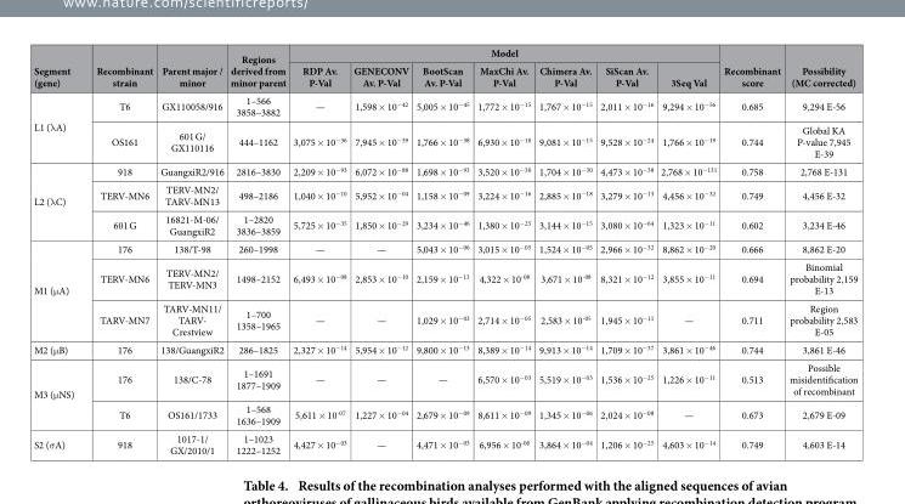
<table><thead><tr><td rowspan="2">Segment (gene)</td><td rowspan="2">Recombinant strain</td><td rowspan="2">Parent major / minor</td><td rowspan="2">Regions derived from minor parent</td><td colspan="7">Model</td><td rowspan="2">Recombinant score</td><td rowspan="2">Possibility (MC corrected)</td></tr><tr><td>RDP Av. P-Val</td><td>GENECONV Av. P-Val</td><td>BootScan Av. P-Val</td><td>MaxChi Av. P-Val</td><td>Chimera Av. P-Val</td><td>SiScan Av. P-Val</td><td>3Seq Val</td></tr></thead><tbody><tr><td rowspan="2">L1 (λ A)</td><td>T6</td><td>GX110058/916</td><td>1–566 3858–3882</td><td>—</td><td>1,598 × 10<sup>−42</sup></td><td>5,005 × 10<sup>−45</sup></td><td>1,772 × 10<sup>−15</sup></td><td>1,767 × 10<sup>−15</sup></td><td>2,011 × 10<sup>−16</sup></td><td>9,294 × 10<sup>−56</sup></td><td>0.685</td><td>9,294 E-56</td></tr><tr><td>OS161</td><td>601 G/ GX110116</td><td>444–1162</td><td>3,075 × 10<sup>−36</sup></td><td>7,945 × 10<sup>−39</sup></td><td>1,766 × 10<sup>−38</sup></td><td>6,930 × 10<sup>−10</sup></td><td>9,081 × 10<sup>−15</sup></td><td>9,528 × 10<sup>−24</sup></td><td>1,766 × 10<sup>−19</sup></td><td>0.744</td><td>Global KA P-value 7,945 E-39</td></tr><tr><td rowspan="3">L2 (λ C)</td><td>918</td><td>GuangxiR2/916</td><td>2816–3830</td><td>2,209 × 10<sup>−93</sup></td><td>6,072 × 10<sup>−88</sup></td><td>1,698 × 10<sup>−93</sup></td><td>3,520 × 10<sup>−30</sup></td><td>1,704 × 10<sup>−30</sup></td><td>4,473 × 10<sup>−38</sup></td><td>2,768 × 10<sup>−131</sup></td><td>0.758</td><td>2,768 E-131</td></tr><tr><td>TERV-MN6</td><td>TERV-MN2/ TARV-MN13</td><td>498–2186</td><td>1,040 × 10<sup>−10</sup></td><td>5,952 × 10<sup>−04</sup></td><td>1,158 × 10<sup>−09</sup></td><td>3,224 × 10<sup>−16</sup></td><td>2,885 × 10<sup>−18</sup></td><td>3,279 × 10<sup>−13</sup></td><td>4,456 × 10<sup>−32</sup></td><td>0.749</td><td>4,456 E-32</td></tr><tr><td>601 G</td><td>16821-M-06/ GuangxiR2</td><td>1–2820 3836–3859</td><td>5,725 × 10<sup>−35</sup></td><td>1,850 × 10<sup>−29</sup></td><td>3,234 × 10<sup>−46</sup></td><td>1,380 × 10<sup>−25</sup></td><td>3,144 × 10<sup>−15</sup></td><td>3,080 × 10<sup>−64</sup></td><td>1,323 × 10<sup>−11</sup></td><td>0.602</td><td>3,234 E-46</td></tr><tr><td rowspan="3">M1 (μ A)</td><td>176</td><td>138/T-98</td><td>260–1998</td><td>—</td><td>—</td><td>5,043 × 10<sup>−06</sup></td><td>3,015 × 10<sup>−05</sup></td><td>1,524 × 10<sup>−05</sup></td><td>2,966 × 10<sup>−32</sup></td><td>8,862 × 10<sup>−20</sup></td><td>0.666</td><td>8,862 E-20</td></tr><tr><td>TERV-MN6</td><td>TERV-MN2/ TERV-MN3</td><td>1498–2152</td><td>6,493 × 10<sup>−08</sup></td><td>2,853 × 10<sup>−10</sup></td><td>2,159 × 10<sup>−13</sup></td><td>4,322 × 10<sup>-08</sup></td><td>3,671 × 10<sup>-08</sup></td><td>8,321 × 10<sup>−12</sup></td><td>3,855 × 10<sup>−11</sup></td><td>0.694</td><td>Binomial probability 2,159 E-13</td></tr><tr><td>TARV-MN7</td><td>TARV-MN11/ TARV- Crestview</td><td>1–700 1358–1965</td><td>—</td><td>—</td><td>1,029 × 10<sup>−03</sup></td><td>2,714 × 10<sup>−05</sup></td><td>2,583 × 10<sup>-05</sup></td><td>1,945 × 10<sup>−11</sup></td><td>—</td><td>0.711</td><td>Region probability 2,583 E-05</td></tr><tr><td>M2 (μ B)</td><td>176</td><td>138/GuangxiR2</td><td>286–1825</td><td>2,327 × 10<sup>−14</sup></td><td>5,954 × 10<sup>−12</sup></td><td>9,800 × 10<sup>−13</sup></td><td>8,389 × 10<sup>−14</sup></td><td>9,913 × 10<sup>−14</sup></td><td>1,709 × 10<sup>−37</sup></td><td>3,861 × 10<sup>−46</sup></td><td>0.744</td><td>3,861 E-46</td></tr><tr><td rowspan="2">M3 (μ NS)</td><td>176</td><td>138/C-78</td><td>1–1691 1877–1909</td><td>—</td><td>—</td><td>—</td><td>6,570 × 10<sup>−03</sup></td><td>5,519 × 10<sup>−03</sup></td><td>1,536 × 10<sup>−25</sup></td><td>1,226 × 10<sup>−11</sup></td><td>0.513</td><td>Possible misidentification of recombinant</td></tr><tr><td>T6</td><td>OS161/1733</td><td>1–568 1636–1909</td><td>5,611 × 10<sup>-07</sup></td><td>1,227 × 10<sup>−04</sup></td><td>2,679 × 10<sup>−09</sup></td><td>8,611 × 10<sup>−09</sup></td><td>1,345 × 10<sup>−06</sup></td><td>2,024 × 10<sup>−08</sup></td><td>—</td><td>0.673</td><td>2,679 E-09</td></tr><tr><td>S2 (σ A)</td><td>918</td><td>1017-1/ GX/2010/1</td><td>1–1023 1222–1252</td><td>4,427 × 10<sup>−03</sup></td><td>—</td><td>4,471 × 10<sup>−03</sup></td><td>6,956 × 10<sup>-06</sup></td><td>3,864 × 10<sup>−04</sup></td><td>1,206 × 10<sup>−25</sup></td><td>4,603 × 10<sup>−14</sup></td><td>0.749</td><td>4,603 E-14</td></tr></tbody></table>